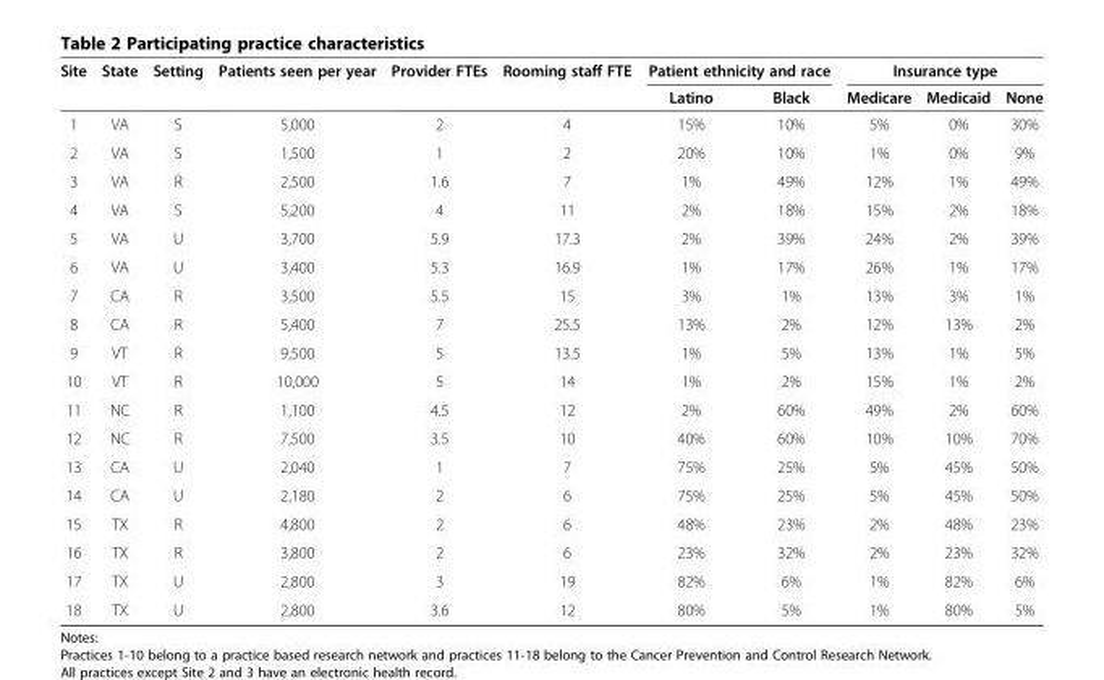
<table><thead><tr><td rowspan="2">Site</td><td rowspan="2">State</td><td rowspan="2">Setting</td><td rowspan="2">Patients seen per year</td><td rowspan="2">Provider FTEs</td><td rowspan="2">Rooming staff FTE</td><td colspan="2">Patient ethnicity and race</td><td colspan="3">Insurance type</td></tr><tr><td>Latino</td><td>Black</td><td>Medicare</td><td>Medicaid</td><td>None</td></tr></thead><tbody><tr><td>1</td><td>VA</td><td>S</td><td>5,000</td><td>2</td><td>4</td><td>15%</td><td>10%</td><td>5%</td><td>0%</td><td>30%</td></tr><tr><td>2</td><td>VA</td><td>S</td><td>1,500</td><td>1</td><td>2</td><td>20%</td><td>10%</td><td>1%</td><td>0%</td><td>9%</td></tr><tr><td>3</td><td>VA</td><td>R</td><td>2,500</td><td>1.6</td><td>7</td><td>1%</td><td>49%</td><td>12%</td><td>1%</td><td>49%</td></tr><tr><td>4</td><td>VA</td><td>S</td><td>5,200</td><td>4</td><td>11</td><td>2%</td><td>18%</td><td>15%</td><td>2%</td><td>18%</td></tr><tr><td>5</td><td>VA</td><td>U</td><td>3,700</td><td>5.9</td><td>17.3</td><td>2%</td><td>39%</td><td>24%</td><td>2%</td><td>39%</td></tr><tr><td>6</td><td>VA</td><td>U</td><td>3,400</td><td>5.3</td><td>16.9</td><td>1%</td><td>17%</td><td>26%</td><td>1%</td><td>17%</td></tr><tr><td>7</td><td>CA</td><td>R</td><td>3,500</td><td>5.5</td><td>15</td><td>3%</td><td>1%</td><td>13%</td><td>3%</td><td>1%</td></tr><tr><td>8</td><td>CA</td><td>R</td><td>5,400</td><td>7</td><td>25.5</td><td>13%</td><td>2%</td><td>12%</td><td>13%</td><td>2%</td></tr><tr><td>9</td><td>VT</td><td>R</td><td>9,500</td><td>5</td><td>13.5</td><td>1%</td><td>5%</td><td>13%</td><td>1%</td><td>5%</td></tr><tr><td>10</td><td>VT</td><td>R</td><td>10,000</td><td>5</td><td>14</td><td>1%</td><td>2%</td><td>15%</td><td>1%</td><td>2%</td></tr><tr><td>11</td><td>NC</td><td>R</td><td>1,100</td><td>4.5</td><td>12</td><td>2%</td><td>60%</td><td>49%</td><td>2%</td><td>60%</td></tr><tr><td>12</td><td>NC</td><td>R</td><td>7,500</td><td>3.5</td><td>10</td><td>40%</td><td>60%</td><td>10%</td><td>10%</td><td>70%</td></tr><tr><td>13</td><td>CA</td><td>U</td><td>2,040</td><td>1</td><td>7</td><td>75%</td><td>25%</td><td>5%</td><td>45%</td><td>50%</td></tr><tr><td>14</td><td>CA</td><td>U</td><td>2,180</td><td>2</td><td>6</td><td>75%</td><td>25%</td><td>5%</td><td>45%</td><td>50%</td></tr><tr><td>15</td><td>TX</td><td>R</td><td>4,800</td><td>2</td><td>6</td><td>48%</td><td>23%</td><td>2%</td><td>48%</td><td>23%</td></tr><tr><td>16</td><td>TX</td><td>R</td><td>3,800</td><td>2</td><td>6</td><td>23%</td><td>32%</td><td>2%</td><td>23%</td><td>32%</td></tr><tr><td>17</td><td>TX</td><td>U</td><td>2,800</td><td>3</td><td>19</td><td>82%</td><td>6%</td><td>1%</td><td>82%</td><td>6%</td></tr><tr><td>18</td><td>TX</td><td>U</td><td>2,800</td><td>3.6</td><td>12</td><td>80%</td><td>5%</td><td>1%</td><td>80%</td><td>5%</td></tr></tbody></table>